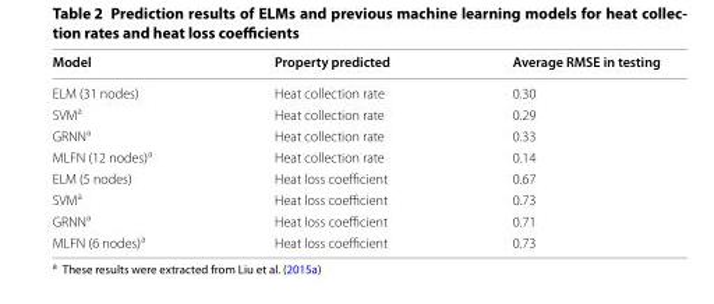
<table><thead><tr><td>Model</td><td>Property predicted</td><td>Average RMSE in testing</td></tr></thead><tbody><tr><td>ELM (31 nodes)</td><td>Heat collection rate</td><td>0.30</td></tr><tr><td>SVM<sup>a</sup></td><td>Heat collection rate</td><td>0.29</td></tr><tr><td>GRNN<sup>a</sup></td><td>Heat collection rate</td><td>0.33</td></tr><tr><td>MLFN (12 nodes)<sup>a</sup></td><td>Heat collection rate</td><td>0.14</td></tr><tr><td>ELM (5 nodes)</td><td>Heat loss coefficient</td><td>0.67</td></tr><tr><td>SVM<sup>a</sup></td><td>Heat loss coefficient</td><td>0.73</td></tr><tr><td>GRNN<sup>a</sup></td><td>Heat loss coefficient</td><td>0.71</td></tr><tr><td>MLFN (6 nodes)<sup>a</sup></td><td>Heat loss coefficient</td><td>0.73</td></tr></tbody></table>